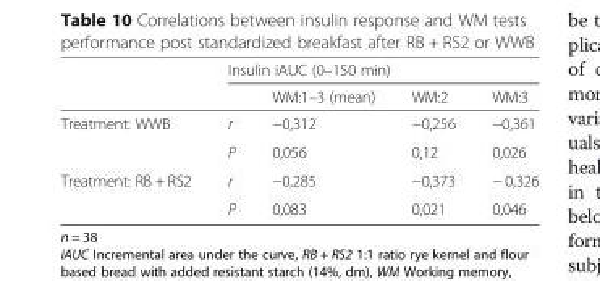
<table><thead><tr><td rowspan="2"></td><td colspan="4">Insulin iAUC (0–150 min)</td></tr><tr><td></td><td>WM:1–3 (mean)</td><td>WM:2</td><td>WM:3</td></tr></thead><tbody><tr><td rowspan="2">Treatment: WWB</td><td>r</td><td>−0,312</td><td>−0,256</td><td>−0,361</td></tr><tr><td>P</td><td>0,056</td><td>0,12</td><td>0,026</td></tr><tr><td rowspan="2">Treatment: RB + RS2</td><td>r</td><td>−0,285</td><td>−0,373</td><td>− 0,326</td></tr><tr><td>P</td><td>0,083</td><td>0,021</td><td>0,046</td></tr></tbody></table>